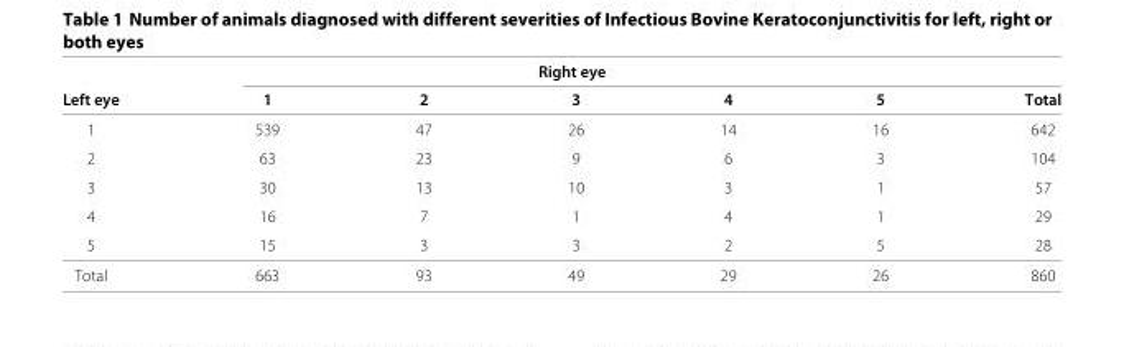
<table><thead><tr><td rowspan="2">Left eye</td><td rowspan="2">1</td><td rowspan="2">2</td><td rowspan="2">Right eye 3</td><td rowspan="2">4</td><td rowspan="2">5</td><td rowspan="2">Total</td></tr><tr></tr></thead><tbody><tr><td>1</td><td>539</td><td>47</td><td>26</td><td>14</td><td>16</td><td>642</td></tr><tr><td>2</td><td>63</td><td>23</td><td>9</td><td>6</td><td>3</td><td>104</td></tr><tr><td>3</td><td>30</td><td>13</td><td>10</td><td>3</td><td>1</td><td>57</td></tr><tr><td>4</td><td>16</td><td>7</td><td>1</td><td>4</td><td>1</td><td>29</td></tr><tr><td>5</td><td>15</td><td>3</td><td>3</td><td>2</td><td>5</td><td>28</td></tr><tr><td>Total</td><td>663</td><td>93</td><td>49</td><td>29</td><td>26</td><td>860</td></tr></tbody></table>